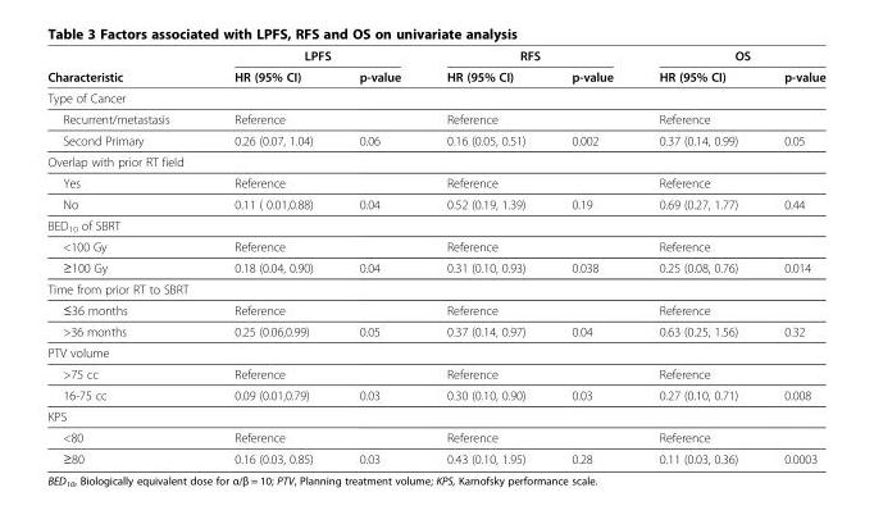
<table><thead><tr><td rowspan="2">Characteristic</td><td colspan="2">LPFS</td><td colspan="2">RFS</td><td colspan="2">OS</td></tr><tr><td>HR (95% CI)</td><td>p-value</td><td>HR (95% CI)</td><td>p-value</td><td>HR (95% CI)</td><td>p-value</td></tr></thead><tbody><tr><td colspan="7">Type of Cancer</td></tr><tr><td>Recurrent/metastasis</td><td>Reference</td><td></td><td>Reference</td><td></td><td>Reference</td><td></td></tr><tr><td>Second Primary</td><td>0.26 (0.07, 1.04)</td><td>0.06</td><td>0.16 (0.05, 0.51)</td><td>0.002</td><td>0.37 (0.14, 0.99)</td><td>0.05</td></tr><tr><td colspan="7">Overlap with prior RT field</td></tr><tr><td>Yes</td><td>Reference</td><td></td><td>Reference</td><td></td><td>Reference</td><td></td></tr><tr><td>No</td><td>0.11 ( 0.01,0.88)</td><td>0.04</td><td>0.52 (0.19, 1.39)</td><td>0.19</td><td>0.69 (0.27, 1.77)</td><td>0.44</td></tr><tr><td colspan="7">BED<sub>10</sub> of SBRT</td></tr><tr><td>&lt;100 Gy</td><td>Reference</td><td></td><td>Reference</td><td></td><td>Reference</td><td></td></tr><tr><td>≥100 Gy</td><td>0.18 (0.04, 0.90)</td><td>0.04</td><td>0.31 (0.10, 0.93)</td><td>0.038</td><td>0.25 (0.08, 0.76)</td><td>0.014</td></tr><tr><td colspan="7">Time from prior RT to SBRT</td></tr><tr><td>≤36 months</td><td>Reference</td><td></td><td>Reference</td><td></td><td>Reference</td><td></td></tr><tr><td>&gt;36 months</td><td>0.25 (0.06,0.99)</td><td>0.05</td><td>0.37 (0.14, 0.97)</td><td>0.04</td><td>0.63 (0.25, 1.56)</td><td>0.32</td></tr><tr><td colspan="7">PTV volume</td></tr><tr><td>&gt;75 cc</td><td>Reference</td><td></td><td>Reference</td><td></td><td>Reference</td><td></td></tr><tr><td>16-75 cc</td><td>0.09 (0.01,0.79)</td><td>0.03</td><td>0.30 (0.10, 0.90)</td><td>0.03</td><td>0.27 (0.10, 0.71)</td><td>0.008</td></tr><tr><td colspan="7">KPS</td></tr><tr><td>&lt;80</td><td>Reference</td><td></td><td>Reference</td><td></td><td>Reference</td><td></td></tr><tr><td>≥80</td><td>0.16 (0.03, 0.85)</td><td>0.03</td><td>0.43 (0.10, 1.95)</td><td>0.28</td><td>0.11 (0.03, 0.36)</td><td>0.0003</td></tr></tbody></table>